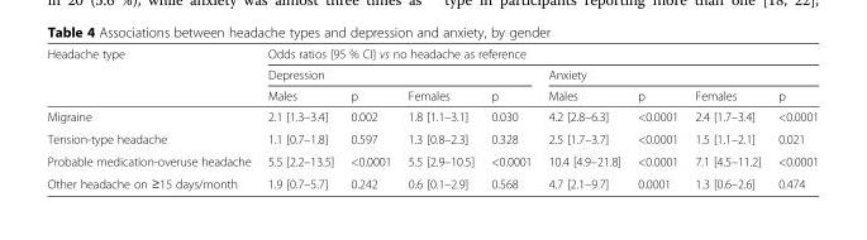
<table><thead><tr><td rowspan="3">Headache type</td><td colspan="8">Odds ratios [95 % CI] vs no headache as reference</td></tr><tr><td colspan="4">Depression</td><td colspan="4">Anxiety</td></tr><tr><td>Males</td><td>p</td><td>Females</td><td>p</td><td>Males</td><td>p</td><td>Females</td><td>p</td></tr></thead><tbody><tr><td>Migraine</td><td>2.1 [1.3–3.4]</td><td>0.002</td><td>1.8 [1.1–3.1]</td><td>0.030</td><td>4.2 [2.8–6.3]</td><td>&lt;0.0001</td><td>2.4 [1.7–3.4]</td><td>&lt;0.0001</td></tr><tr><td>Tension-type headache</td><td>1.1 [0.7–1.8]</td><td>0.597</td><td>1.3 [0.8–2.3]</td><td>0.328</td><td>2.5 [1.7–3.7]</td><td>&lt;0.0001</td><td>1.5 [1.1–2.1]</td><td>0.021</td></tr><tr><td>Probable medication-overuse headache</td><td>5.5 [2.2–13.5]</td><td>&lt;0.0001</td><td>5.5 [2.9–10.5]</td><td>&lt;0.0001</td><td>10.4 [4.9–21.8]</td><td>&lt;0.0001</td><td>7.1 [4.5–11.2]</td><td>&lt;0.0001</td></tr><tr><td>Other headache on ≥15 days/month</td><td>1.9 [0.7–5.7]</td><td>0.242</td><td>0.6 [0.1–2.9]</td><td>0.568</td><td>4.7 [2.1–9.7]</td><td>0.0001</td><td>1.3 [0.6–2.6]</td><td>0.474</td></tr></tbody></table>